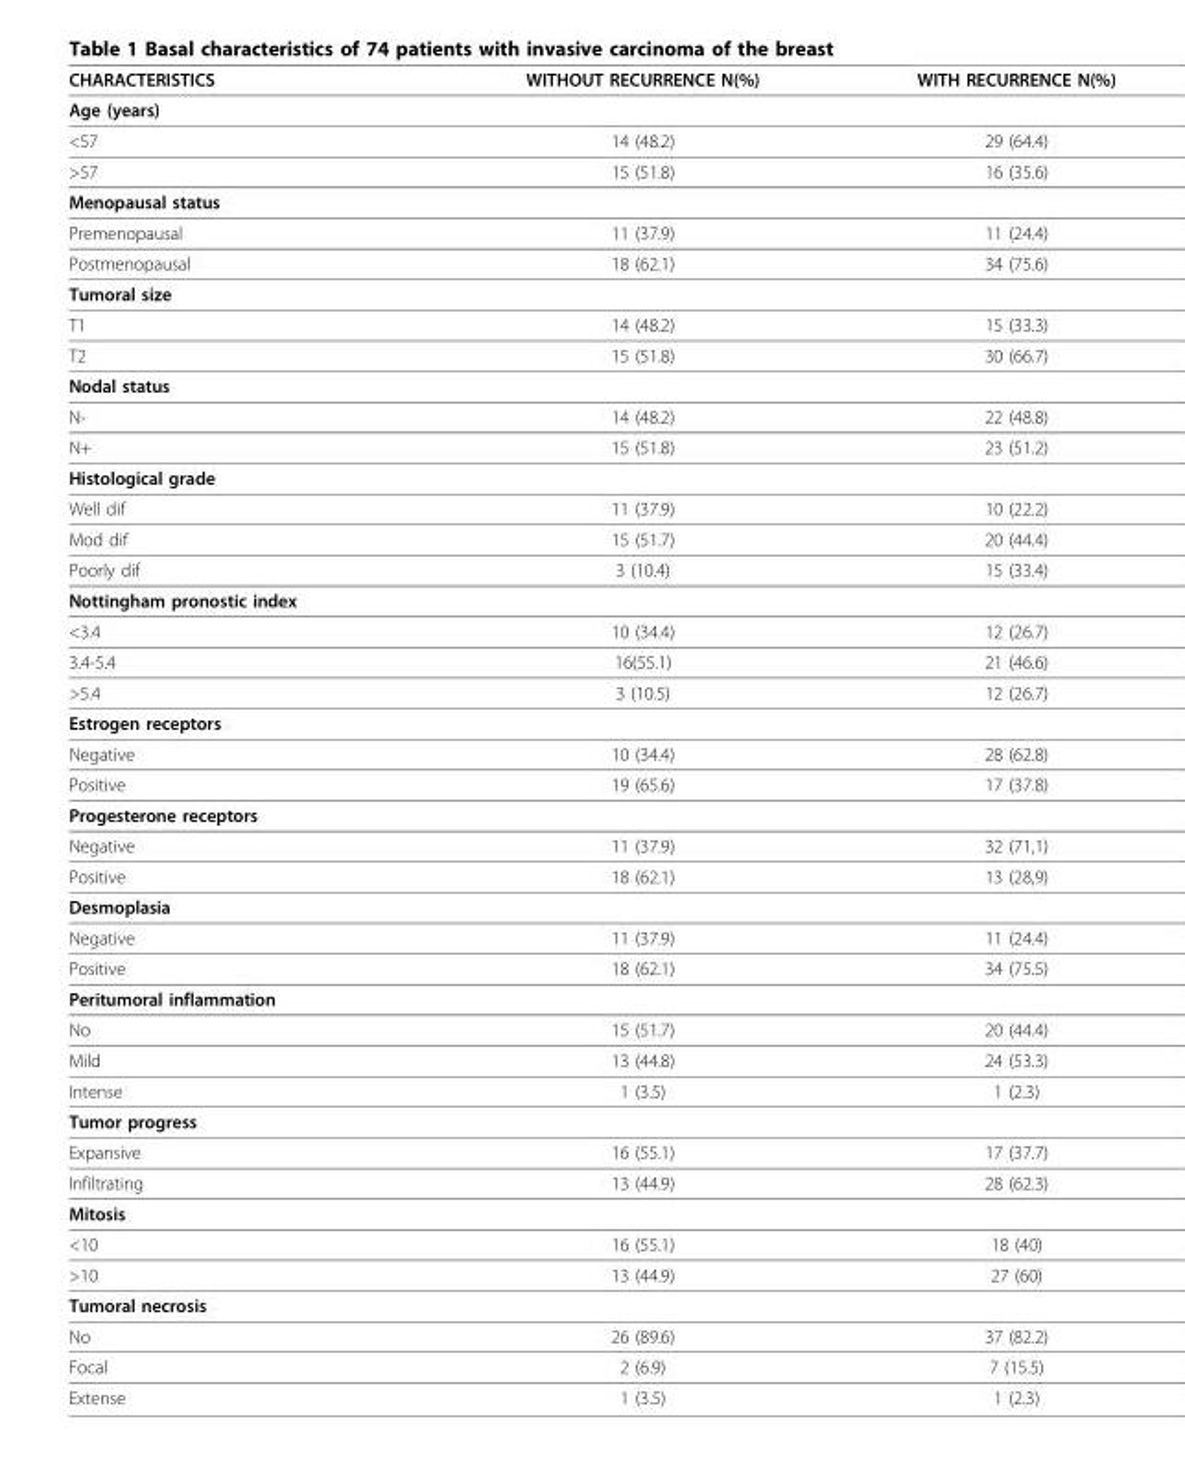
<table><thead><tr><td>CHARACTERISTICS</td><td>WITHOUT RECURRENCE N(%)</td><td>WITH RECURRENCE N(%)</td></tr></thead><tbody><tr><td colspan="3">Age (years)</td></tr><tr><td>&lt;57</td><td>14 (48.2)</td><td>29 (64.4)</td></tr><tr><td>&gt;57</td><td>15 (51.8)</td><td>16 (35.6)</td></tr><tr><td colspan="3">Menopausal status</td></tr><tr><td>Premenopausal</td><td>11 (37.9)</td><td>11 (24.4)</td></tr><tr><td>Postmenopausal</td><td>18 (62.1)</td><td>34 (75.6)</td></tr><tr><td colspan="3">Tumoral size</td></tr><tr><td>T1</td><td>14 (48.2)</td><td>15 (33.3)</td></tr><tr><td>T2</td><td>15 (51.8)</td><td>30 (66.7)</td></tr><tr><td colspan="3">Nodal status</td></tr><tr><td>N-</td><td>14 (48.2)</td><td>22 (48.8)</td></tr><tr><td>N+</td><td>15 (51.8)</td><td>23 (51.2)</td></tr><tr><td colspan="3">Histological grade</td></tr><tr><td>Well dif</td><td>11 (37.9)</td><td>10 (22.2)</td></tr><tr><td>Mod dif</td><td>15 (51.7)</td><td>20 (44.4)</td></tr><tr><td>Poorly dif</td><td>3 (10.4)</td><td>15 (33.4)</td></tr><tr><td colspan="3">Nottingham pronostic index</td></tr><tr><td>&lt;3.4</td><td>10 (34.4)</td><td>12 (26.7)</td></tr><tr><td>3.4-5.4</td><td>16(55.1)</td><td>21 (46.6)</td></tr><tr><td>&gt;5.4</td><td>3 (10.5)</td><td>12 (26.7)</td></tr><tr><td colspan="3">Estrogen receptors</td></tr><tr><td>Negative</td><td>10 (34.4)</td><td>28 (62.8)</td></tr><tr><td>Positive</td><td>19 (65.6)</td><td>17 (37.8)</td></tr><tr><td colspan="3">Progesterone receptors</td></tr><tr><td>Negative</td><td>11 (37.9)</td><td>32 (71,1)</td></tr><tr><td>Positive</td><td>18 (62.1)</td><td>13 (28,9)</td></tr><tr><td colspan="3">Desmoplasia</td></tr><tr><td>Negative</td><td>11 (37.9)</td><td>11 (24.4)</td></tr><tr><td>Positive</td><td>18 (62.1)</td><td>34 (75.5)</td></tr><tr><td colspan="3">Peritumoral inflammation</td></tr><tr><td>No</td><td>15 (51.7)</td><td>20 (44.4)</td></tr><tr><td>Mild</td><td>13 (44.8)</td><td>24 (53.3)</td></tr><tr><td>Intense</td><td>1 (3.5)</td><td>1 (2.3)</td></tr><tr><td colspan="3">Tumor progress</td></tr><tr><td>Expansive</td><td>16 (55.1)</td><td>17 (37.7)</td></tr><tr><td>Infiltrating</td><td>13 (44.9)</td><td>28 (62.3)</td></tr><tr><td colspan="3">Mitosis</td></tr><tr><td>&lt;10</td><td>16 (55.1)</td><td>18 (40)</td></tr><tr><td>&gt;10</td><td>13 (44.9)</td><td>27 (60)</td></tr><tr><td colspan="3">Tumoral necrosis</td></tr><tr><td>No</td><td>26 (89.6)</td><td>37 (82.2)</td></tr><tr><td>Focal</td><td>2 (6.9)</td><td>7 (15.5)</td></tr><tr><td>Extense</td><td>1 (3.5)</td><td>1 (2.3)</td></tr></tbody></table>